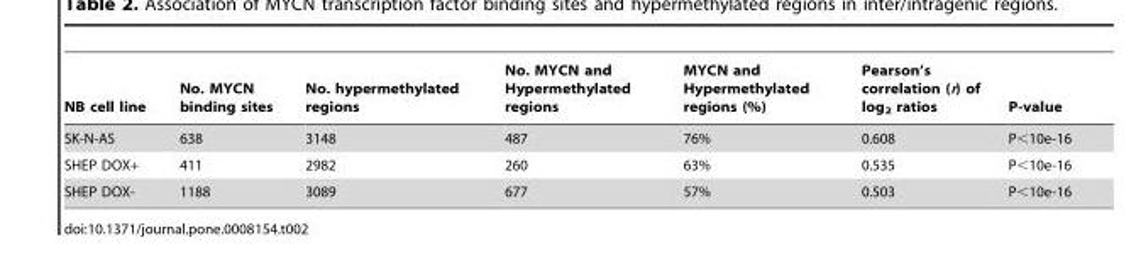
<table><thead><tr><td>NB cell line</td><td>No. MYCN binding sites</td><td>No. hypermethylated regions</td><td>No. MYCN and Hypermethylated regions</td><td>MYCN and Hypermethylated regions (%)</td><td>Pearson’s correlation (r) of log<sub>2</sub> ratios</td><td>P-value</td></tr></thead><tbody><tr><td>SK-N-AS</td><td>638</td><td>3148</td><td>487</td><td>76%</td><td>0.608</td><td>P&lt;10e-16</td></tr><tr><td>SHEP DOX+</td><td>411</td><td>2982</td><td>260</td><td>63%</td><td>0.535</td><td>P&lt;10e-16</td></tr><tr><td>SHEP DOX-</td><td>1188</td><td>3089</td><td>677</td><td>57%</td><td>0.503</td><td>P&lt;10e-16</td></tr></tbody></table>